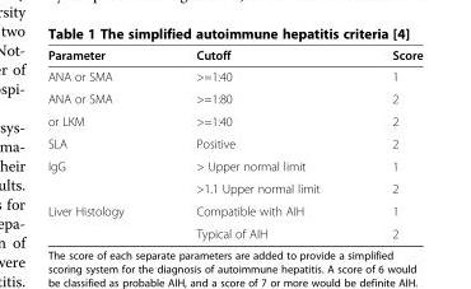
<table><thead><tr><td>Parameter</td><td>Cutoff</td><td>Score</td></tr></thead><tbody><tr><td>ANA or SMA</td><td>&gt;=1:40</td><td>1</td></tr><tr><td>ANA or SMA</td><td>&gt;=1:80</td><td>2</td></tr><tr><td>or LKM</td><td>&gt;=1:40</td><td>2</td></tr><tr><td>SLA</td><td>Positive</td><td>2</td></tr><tr><td rowspan="2">IgG</td><td>&gt; Upper normal limit</td><td>1</td></tr><tr><td>&gt;1.1 Upper normal limit</td><td>2</td></tr><tr><td rowspan="2">Liver Histology</td><td>Compatible with AIH</td><td>1</td></tr><tr><td>Typical of AIH</td><td>2</td></tr></tbody></table>